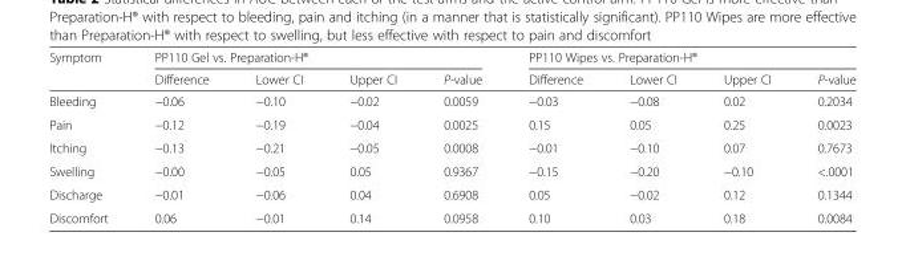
<table><thead><tr><td rowspan="2">Symptom</td><td colspan="4">PP110 Gel vs. Preparation-H®</td><td colspan="4">PP110 Wipes vs. Preparation-H®</td></tr><tr><td>Difference</td><td>Lower CI</td><td>Upper CI</td><td>P-value</td><td>Difference</td><td>Lower CI</td><td>Upper CI</td><td>P-value</td></tr></thead><tbody><tr><td>Bleeding</td><td>−0.06</td><td>−0.10</td><td>−0.02</td><td>0.0059</td><td>−0.03</td><td>−0.08</td><td>0.02</td><td>0.2034</td></tr><tr><td>Pain</td><td>−0.12</td><td>−0.19</td><td>−0.04</td><td>0.0025</td><td>0.15</td><td>0.05</td><td>0.25</td><td>0.0023</td></tr><tr><td>Itching</td><td>−0.13</td><td>−0.21</td><td>−0.05</td><td>0.0008</td><td>−0.01</td><td>−0.10</td><td>0.07</td><td>0.7673</td></tr><tr><td>Swelling</td><td>−0.00</td><td>−0.05</td><td>0.05</td><td>0.9367</td><td>−0.15</td><td>−0.20</td><td>−0.10</td><td>&lt;.0001</td></tr><tr><td>Discharge</td><td>−0.01</td><td>−0.06</td><td>0.04</td><td>0.6908</td><td>0.05</td><td>−0.02</td><td>0.12</td><td>0.1344</td></tr><tr><td>Discomfort</td><td>0.06</td><td>−0.01</td><td>0.14</td><td>0.0958</td><td>0.10</td><td>0.03</td><td>0.18</td><td>0.0084</td></tr></tbody></table>